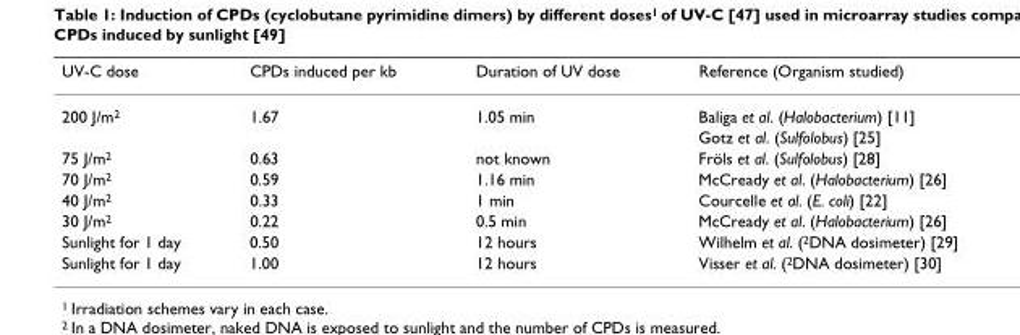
<table><thead><tr><td>UV-C dose</td><td>CPDs induced per kb</td><td>Duration of UV dose</td><td>Reference (Organism studied)</td></tr></thead><tbody><tr><td rowspan="2">200 J/m<sup>2</sup></td><td>1.67</td><td>1.05 min</td><td>Baliga et al. (Halobacterium) [11]</td></tr><tr><td></td><td></td><td>Gotz et al. (Sulfolobus) [25]</td></tr><tr><td>75 J/m<sup>2</sup></td><td>0.63</td><td>not known</td><td>Fröls et al. (Sulfolobus) [28]</td></tr><tr><td>70 J/m<sup>2</sup></td><td>0.59</td><td>1.16 min</td><td>McCready et al. (Halobacterium) [26]</td></tr><tr><td>40 J/m<sup>2</sup></td><td>0.33</td><td>1 min</td><td>Courcelle et al. (E. coli) [22]</td></tr><tr><td>30 J/m<sup>2</sup></td><td>0.22</td><td>0.5 min</td><td>McCready et al. (Halobacterium) [26]</td></tr><tr><td>Sunlight for 1 day</td><td>0.50</td><td>12 hours</td><td>Wilhelm et al. (<sup>2</sup>DNA dosimeter) [29]</td></tr><tr><td>Sunlight for 1 day</td><td>1.00</td><td>12 hours</td><td>Visser et al. (<sup>2</sup>DNA dosimeter) [30]</td></tr></tbody></table>